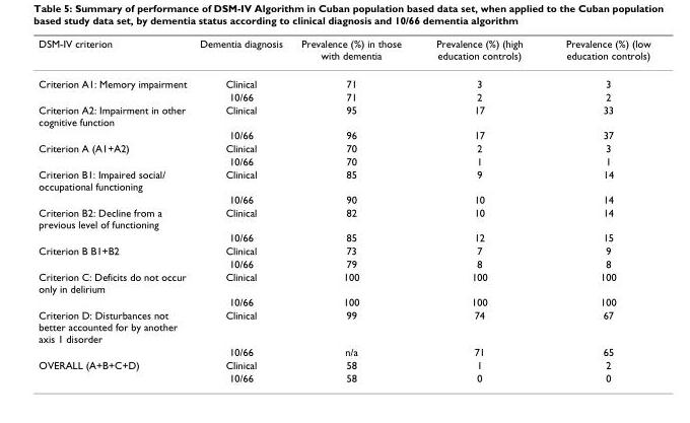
<table><thead><tr><td>DSM-IV criterion</td><td>Dementia diagnosis</td><td>Prevalence (%) in those with dementia</td><td>Prevalence (%) (high education controls)</td><td>Prevalence (%) (low education controls)</td></tr></thead><tbody><tr><td rowspan="2">Criterion A1: Memory impairment</td><td>Clinical</td><td>71</td><td>3</td><td>3</td></tr><tr><td>10/66</td><td>71</td><td>2</td><td>2</td></tr><tr><td rowspan="2">Criterion A2: Impairment in other cognitive function</td><td>Clinical</td><td>95</td><td>17</td><td>33</td></tr><tr><td>10/66</td><td>96</td><td>17</td><td>37</td></tr><tr><td rowspan="2">Criterion A (A1+A2)</td><td>Clinical</td><td>70</td><td>2</td><td>3</td></tr><tr><td>10/66</td><td>70</td><td>1</td><td>1</td></tr><tr><td rowspan="2">Criterion B1: Impaired social/ occupational functioning</td><td>Clinical</td><td>85</td><td>9</td><td>14</td></tr><tr><td>10/66</td><td>90</td><td>10</td><td>14</td></tr><tr><td rowspan="2">Criterion B2: Decline from a previous level of functioning</td><td>Clinical</td><td>82</td><td>10</td><td>14</td></tr><tr><td>10/66</td><td>85</td><td>12</td><td>15</td></tr><tr><td rowspan="2">Criterion B B1+B2</td><td>Clinical</td><td>73</td><td>7</td><td>9</td></tr><tr><td>10/66</td><td>79</td><td>8</td><td>8</td></tr><tr><td rowspan="2">Criterion C: Deficits do not occur only in delirium</td><td>Clinical</td><td>100</td><td>100</td><td>100</td></tr><tr><td>10/66</td><td>100</td><td>100</td><td>100</td></tr><tr><td rowspan="2">Criterion D: Disturbances not better accounted for by another axis 1 disorder</td><td>Clinical</td><td>99</td><td>74</td><td>67</td></tr><tr><td>10/66</td><td>n/a</td><td>71</td><td>65</td></tr><tr><td rowspan="2">OVERALL (A+B+C+D)</td><td>Clinical</td><td>58</td><td>1</td><td>2</td></tr><tr><td>10/66</td><td>58</td><td>0</td><td>0</td></tr></tbody></table>